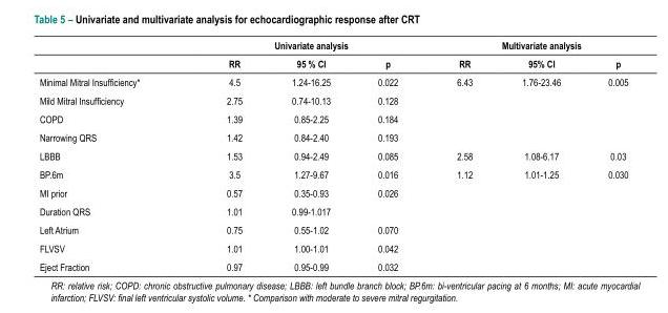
<table><thead><tr><td rowspan="2"></td><td colspan="3">Univariate analysis</td><td colspan="3">Multivariate analysis</td></tr><tr><td>RR</td><td>95 % CI</td><td>p</td><td>RR</td><td>95% CI</td><td>p</td></tr></thead><tbody><tr><td>Minimal Mitral Insufficiency*</td><td>4.5</td><td>1.24-16.25</td><td>0.022</td><td>6.43</td><td>1.76-23.46</td><td>0.005</td></tr><tr><td>Mild Mitral Insufficiency</td><td>2.75</td><td>0.74-10.13</td><td>0.128</td><td></td><td></td><td></td></tr><tr><td>COPD</td><td>1.39</td><td>0.85-2.25</td><td>0.184</td><td></td><td></td><td></td></tr><tr><td>Narrowing QRS</td><td>1.42</td><td>0.84-2.40</td><td>0.193</td><td></td><td></td><td></td></tr><tr><td>LBBB</td><td>1.53</td><td>0.94-2.49</td><td>0.085</td><td>2.58</td><td>1.08-6.17</td><td>0.03</td></tr><tr><td>BP.6m</td><td>3.5</td><td>1.27-9.67</td><td>0.016</td><td>1.12</td><td>1.01-1.25</td><td>0.030</td></tr><tr><td>MI prior</td><td>0.57</td><td>0.35-0.93</td><td>0.026</td><td></td><td></td><td></td></tr><tr><td>Duration QRS</td><td>1.01</td><td>0.99-1.017</td><td></td><td></td><td></td><td></td></tr><tr><td>Left Atrium</td><td>0.75</td><td>0.55-1.02</td><td>0.070</td><td></td><td></td><td></td></tr><tr><td>FLVSV</td><td>1.01</td><td>1.00-1.01</td><td>0.042</td><td></td><td></td><td></td></tr><tr><td>Eject Fraction</td><td>0.97</td><td>0.95-0.99</td><td>0.032</td><td></td><td></td><td></td></tr></tbody></table>